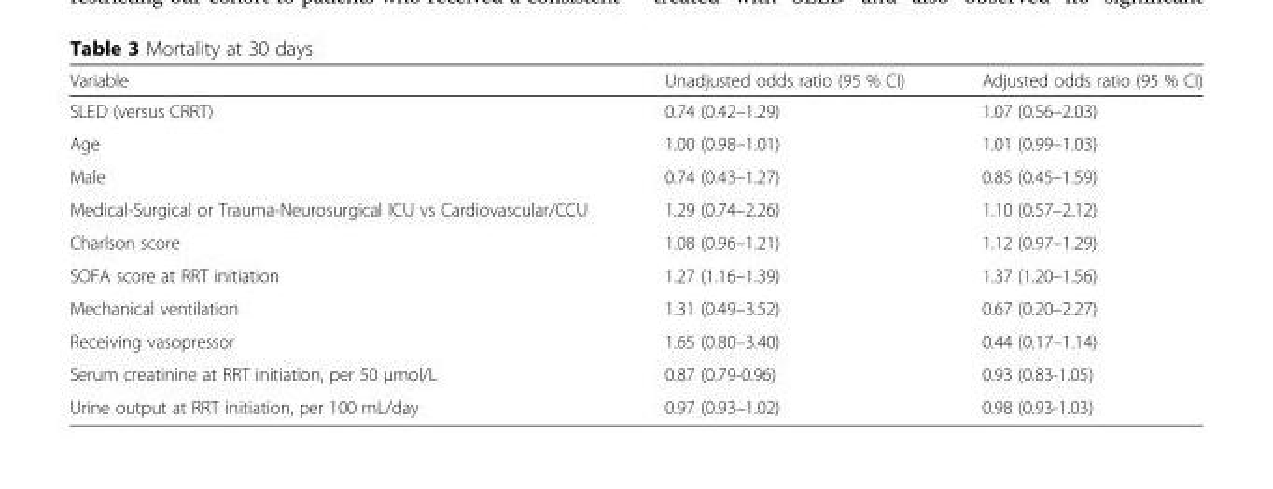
<table><thead><tr><td>Variable</td><td>Unadjusted odds ratio (95 % CI)</td><td>Adjusted odds ratio (95 % CI)</td></tr></thead><tbody><tr><td>SLED (versus CRRT)</td><td>0.74 (0.42–1.29)</td><td>1.07 (0.56–2.03)</td></tr><tr><td>Age</td><td>1.00 (0.98–1.01)</td><td>1.01 (0.99–1.03)</td></tr><tr><td>Male</td><td>0.74 (0.43–1.27)</td><td>0.85 (0.45–1.59)</td></tr><tr><td>Medical-Surgical or Trauma-Neurosurgical ICU vs Cardiovascular/CCU</td><td>1.29 (0.74–2.26)</td><td>1.10 (0.57–2.12)</td></tr><tr><td>Charlson score</td><td>1.08 (0.96–1.21)</td><td>1.12 (0.97–1.29)</td></tr><tr><td>SOFA score at RRT initiation</td><td>1.27 (1.16–1.39)</td><td>1.37 (1.20–1.56)</td></tr><tr><td>Mechanical ventilation</td><td>1.31 (0.49–3.52)</td><td>0.67 (0.20–2.27)</td></tr><tr><td>Receiving vasopressor</td><td>1.65 (0.80–3.40)</td><td>0.44 (0.17–1.14)</td></tr><tr><td>Serum creatinine at RRT initiation, per 50 μmol/L</td><td>0.87 (0.79-0.96)</td><td>0.93 (0.83-1.05)</td></tr><tr><td>Urine output at RRT initiation, per 100 mL/day</td><td>0.97 (0.93–1.02)</td><td>0.98 (0.93-1.03)</td></tr></tbody></table>